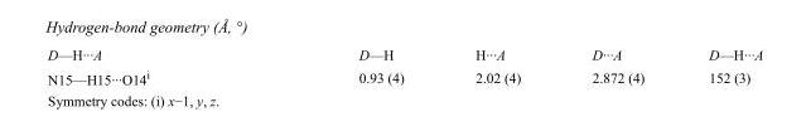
<table><tbody><tr><td>D—H···A</td><td>D—H</td><td>H···A</td><td>D···A</td><td>D—H···A</td></tr><tr><td>N15—H15···O14<sup>i</sup></td><td>0.93 (4)</td><td>2.02 (4)</td><td>2.872 (4)</td><td>152 (3)</td></tr></tbody></table>